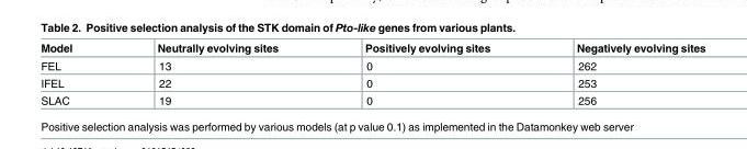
<table><thead><tr><td>Model</td><td>Neutrally evolving sites</td><td>Positively evolving sites</td><td>Negatively evolving sites</td></tr></thead><tbody><tr><td>FEL</td><td>13</td><td>0</td><td>262</td></tr><tr><td>IFEL</td><td>22</td><td>0</td><td>253</td></tr><tr><td>SLAC</td><td>19</td><td>0</td><td>256</td></tr></tbody></table>